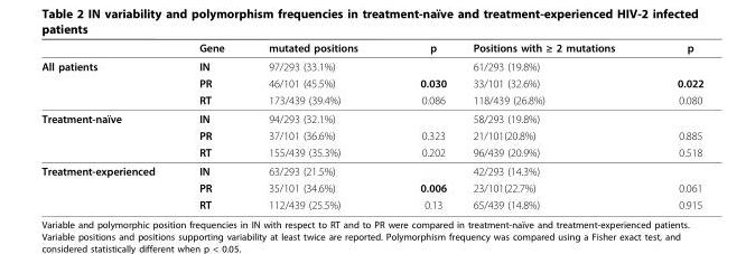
<table><thead><tr><td></td><td>Gene</td><td>mutated positions</td><td>p</td><td>Positions with ≥ 2 mutations</td><td>p</td></tr></thead><tbody><tr><td rowspan="3">All patients</td><td>IN</td><td>97/293 (33.1%)</td><td></td><td>61/293 (19.8%)</td><td></td></tr><tr><td>PR</td><td>46/101 (45.5%)</td><td>0.030</td><td>33/101 (32.6%)</td><td>0.022</td></tr><tr><td>RT</td><td>173/439 (39.4%)</td><td>0.086</td><td>118/439 (26.8%)</td><td>0.080</td></tr><tr><td rowspan="3">Treatment-naïve</td><td>IN</td><td>94/293 (32.1%)</td><td></td><td>58/293 (19.8%)</td><td></td></tr><tr><td>PR</td><td>37/101 (36.6%)</td><td>0.323</td><td>21/101(20.8%)</td><td>0.885</td></tr><tr><td>RT</td><td>155/439 (35.3%)</td><td>0.202</td><td>96/439 (20.9%)</td><td>0.518</td></tr><tr><td rowspan="3">Treatment-experienced</td><td>IN</td><td>63/293 (21.5%)</td><td></td><td>42/293 (14.3%)</td><td></td></tr><tr><td>PR</td><td>35/101 (34.6%)</td><td>0.006</td><td>23/101(22.7%)</td><td>0.061</td></tr><tr><td>RT</td><td>112/439 (25.5%)</td><td>0.13</td><td>65/439 (14.8%)</td><td>0.915</td></tr></tbody></table>